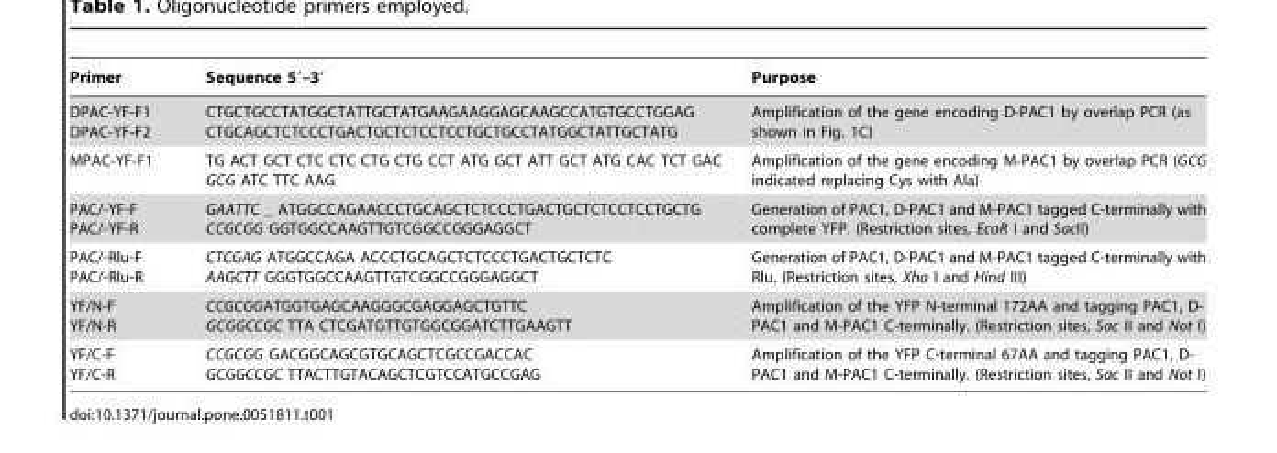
<table><thead><tr><td>Primer</td><td>Sequence 5′–3′</td><td>Purpose</td></tr></thead><tbody><tr><td>DPAC-YF-F1 DPAC-YF-F2</td><td>CTGCTGCCTATGGCTATTGCTATGAAGAAGGAGCAAGCCATGTGCCTGGAG CTGCAGCTCTCCCTGACTGCTCTCCTCCTGCTGCCTATGGCTATTGCTATG</td><td>Amplification of the gene encoding D-PAC1 by overlap PCR (as shown in Fig. 1C)</td></tr><tr><td>MPAC-YF-F1</td><td>TG ACT GCT CTC CTC CTG CTG CCT ATG GCT ATT GCT ATG CAC TCT GAC GCG ATC TTC AAG</td><td>Amplification of the gene encoding M-PAC1 by overlap PCR (GCG indicated replacing Cys with Ala)</td></tr><tr><td>PAC/-YF-F PAC/-YF-R</td><td>GAATTC _ ATGGCCAGAACCCTGCAGCTCTCCCTGACTGCTCTCCTCCTGCTG CCGCGG GGTGGCCAAGTTGTCGGCCGGGAGGCT</td><td>Generation of PAC1, D-PAC1 and M-PAC1 tagged C-terminally with complete YFP. (Restriction sites, EcoR I and SacII)</td></tr><tr><td>PAC/-Rlu-F PAC/-Rlu-R</td><td>CTCGAG ATGGCCAGA ACCCTGCAGCTCTCCCTGACTGCTCTC AAGCTT GGGTGGCCAAGTTGTCGGCCGGGAGGCT</td><td>Generation of PAC1, D-PAC1 and M-PAC1 tagged C-terminally with Rlu. (Restriction sites, Xho I and Hind III)</td></tr><tr><td>YF/N-F YF/N-R</td><td>CCGCGGATGGTGAGCAAGGGCGAGGAGCTGTTC GCGGCCGC TTA CTCGATGTTGTGGCGGATCTTGAAGTT</td><td>Amplification of the YFP N-terminal 172AA and tagging PAC1, D- PAC1 and M-PAC1 C-terminally. (Restriction sites, Sac II and Not I)</td></tr><tr><td>YF/C-F YF/C-R</td><td>CCGCGG GACGGCAGCGTGCAGCTCGCCGACCAC GCGGCCGC TTACTTGTACAGCTCGTCCATGCCGAG</td><td>Amplification of the YFP C-terminal 67AA and tagging PAC1, D- PAC1 and M-PAC1 C-terminally. (Restriction sites, Sac II and Not I)</td></tr></tbody></table>